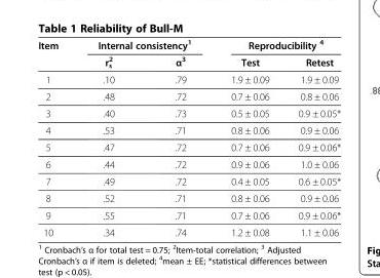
<table><thead><tr><td rowspan="2">Item</td><td colspan="2">Internal consistency<sup>1</sup></td><td colspan="2">Reproducibility <sup>4</sup></td></tr><tr><td>r<sub>s</sub> <sup>2</sup></td><td>α<sup>3</sup></td><td>Test</td><td>Retest</td></tr></thead><tbody><tr><td>1</td><td>.10</td><td>.79</td><td>1.9 ± 0.09</td><td>1.9 ± 0.09</td></tr><tr><td>2</td><td>.48</td><td>.72</td><td>0.7 ± 0.06</td><td>0.8 ± 0.06</td></tr><tr><td>3</td><td>.40</td><td>.73</td><td>0.5 ± 0.05</td><td>0.9 ± 0.05*</td></tr><tr><td>4</td><td>.53</td><td>.71</td><td>0.8 ± 0.06</td><td>0.9 ± 0.06</td></tr><tr><td>5</td><td>.47</td><td>.72</td><td>0.7 ± 0.06</td><td>0.9 ± 0.06*</td></tr><tr><td>6</td><td>.44</td><td>.72</td><td>0.9 ± 0.06</td><td>1.0 ± 0.06</td></tr><tr><td>7</td><td>.49</td><td>.72</td><td>0.4 ± 0.05</td><td>0.6 ± 0.05*</td></tr><tr><td>8</td><td>.52</td><td>.71</td><td>0.8 ± 0.06</td><td>0.9 ± 0.06</td></tr><tr><td>9</td><td>.55</td><td>.71</td><td>0.7 ± 0.06</td><td>0.9 ± 0.06*</td></tr><tr><td>10</td><td>.34</td><td>.74</td><td>1.2 ± 0.08</td><td>1.1 ± 0.06</td></tr></tbody></table>